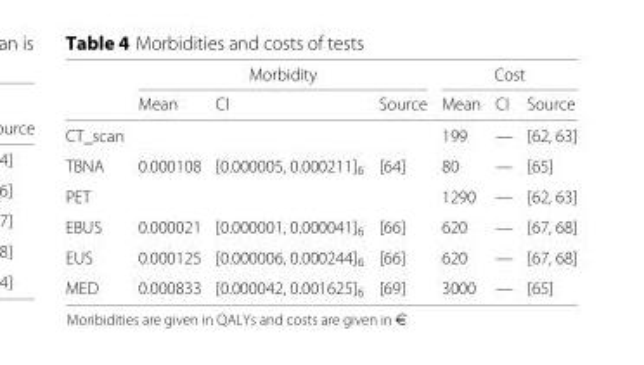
<table><thead><tr><td rowspan="2"></td><td colspan="3">Morbidity</td><td colspan="3">Cost</td></tr><tr><td>Mean</td><td>CI</td><td>Source</td><td>Mean</td><td>CI</td><td>Source</td></tr></thead><tbody><tr><td>CT_scan</td><td></td><td></td><td></td><td>199</td><td>—</td><td>[62, 63]</td></tr><tr><td>TBNA</td><td>0.000108</td><td>[0.000005, 0.000211]<sub>6</sub></td><td>[64]</td><td>80</td><td>—</td><td>[65]</td></tr><tr><td>PET</td><td></td><td></td><td></td><td>1290</td><td>—</td><td>[62, 63]</td></tr><tr><td>EBUS</td><td>0.000021</td><td>[0.000001, 0.000041]<sub>6</sub></td><td>[66]</td><td>620</td><td>—</td><td>[67, 68]</td></tr><tr><td>EUS</td><td>0.000125</td><td>[0.000006, 0.000244]<sub>6</sub></td><td>[66]</td><td>620</td><td>—</td><td>[67, 68]</td></tr><tr><td>MED</td><td>0.000833</td><td>[0.000042, 0.001625]<sub>6</sub></td><td>[69]</td><td>3000</td><td>—</td><td>[65]</td></tr></tbody></table>